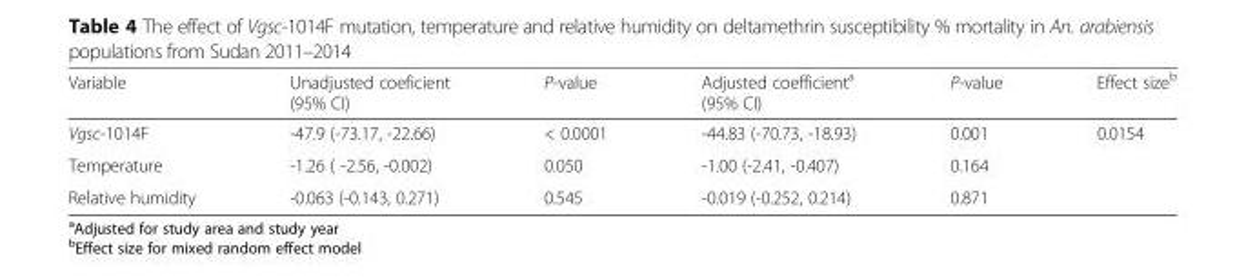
<table><thead><tr><td>Variable</td><td>Unadjusted coeficient (95% CI)</td><td>P-value</td><td>Adjusted coefficient<sup>a</sup> (95% CI)</td><td>P-value</td><td>Effect size<sup>b</sup></td></tr></thead><tbody><tr><td>Vgsc-1014F</td><td>-47.9 (-73.17, -22.66)</td><td>&lt; 0.0001</td><td>-44.83 (-70.73, -18.93)</td><td>0.001</td><td rowspan="3">0.0154</td></tr><tr><td>Temperature</td><td>-1.26 ( -2.56, -0.002)</td><td>0.050</td><td>-1.00 (-2.41, -0.407)</td><td>0.164</td></tr><tr><td>Relative humidity</td><td>-0.063 (-0.143, 0.271)</td><td>0.545</td><td>-0.019 (-0.252, 0.214)</td><td>0.871</td></tr></tbody></table>